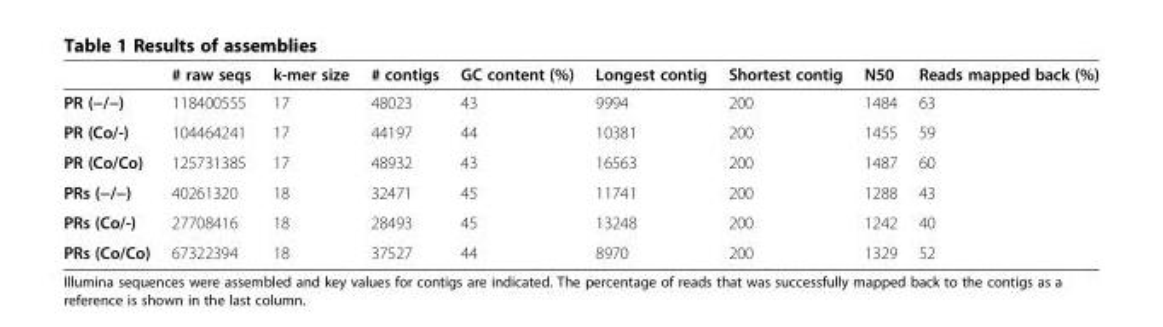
<table><thead><tr><td></td><td># raw seqs</td><td>k-mer size</td><td># contigs</td><td>GC content (%)</td><td>Longest contig</td><td>Shortest contig</td><td>N50</td><td>Reads mapped back (%)</td></tr></thead><tbody><tr><td>PR (−/−)</td><td>118400555</td><td>17</td><td>48023</td><td>43</td><td>9994</td><td>200</td><td>1484</td><td>63</td></tr><tr><td>PR (Co/-)</td><td>104464241</td><td>17</td><td>44197</td><td>44</td><td>10381</td><td>200</td><td>1455</td><td>59</td></tr><tr><td>PR (Co/Co)</td><td>125731385</td><td>17</td><td>48932</td><td>43</td><td>16563</td><td>200</td><td>1487</td><td>60</td></tr><tr><td>PRs (−/−)</td><td>40261320</td><td>18</td><td>32471</td><td>45</td><td>11741</td><td>200</td><td>1288</td><td>43</td></tr><tr><td>PRs (Co/-)</td><td>27708416</td><td>18</td><td>28493</td><td>45</td><td>13248</td><td>200</td><td>1242</td><td>40</td></tr><tr><td>PRs (Co/Co)</td><td>67322394</td><td>18</td><td>37527</td><td>44</td><td>8970</td><td>200</td><td>1329</td><td>52</td></tr></tbody></table>